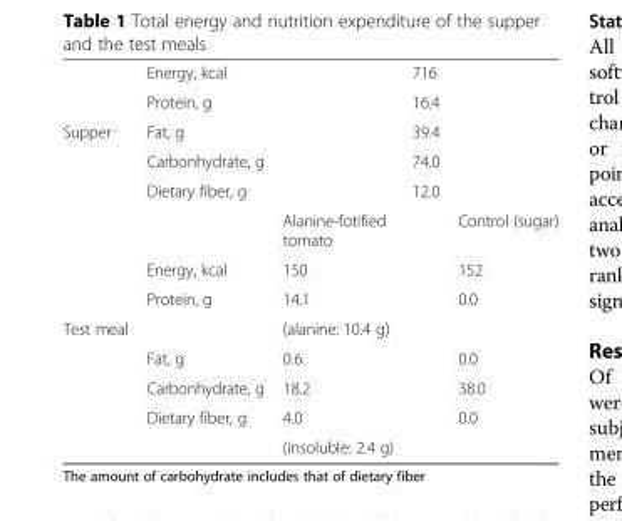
<table><thead><tr><td></td><td>Energy, kcal</td><td></td><td>716</td><td></td></tr></thead><tbody><tr><td></td><td>Protein, g</td><td></td><td>16.4</td><td></td></tr><tr><td rowspan="6">Supper</td><td>Fat, g</td><td></td><td>39.4</td><td></td></tr><tr><td>Carbonhydrate, g</td><td></td><td>74.0</td><td></td></tr><tr><td>Dietary fiber, g</td><td></td><td>12.0</td><td></td></tr><tr><td></td><td>Alanine-fotified tomato</td><td></td><td>Control (sugar)</td></tr><tr><td>Energy, kcal</td><td>150</td><td></td><td>152</td></tr><tr><td>Protein, g</td><td>14.1</td><td></td><td>0.0</td></tr><tr><td rowspan="5">Test meal</td><td></td><td>(alanine: 10.4 g)</td><td></td><td></td></tr><tr><td>Fat, g</td><td>0.6</td><td></td><td>0.0</td></tr><tr><td>Carbonhydrate, g</td><td>18.2</td><td></td><td>38.0</td></tr><tr><td>Dietary fiber, g</td><td>4.0</td><td></td><td>0.0</td></tr><tr><td></td><td>(insoluble: 2.4 g)</td><td></td><td></td></tr></tbody></table>